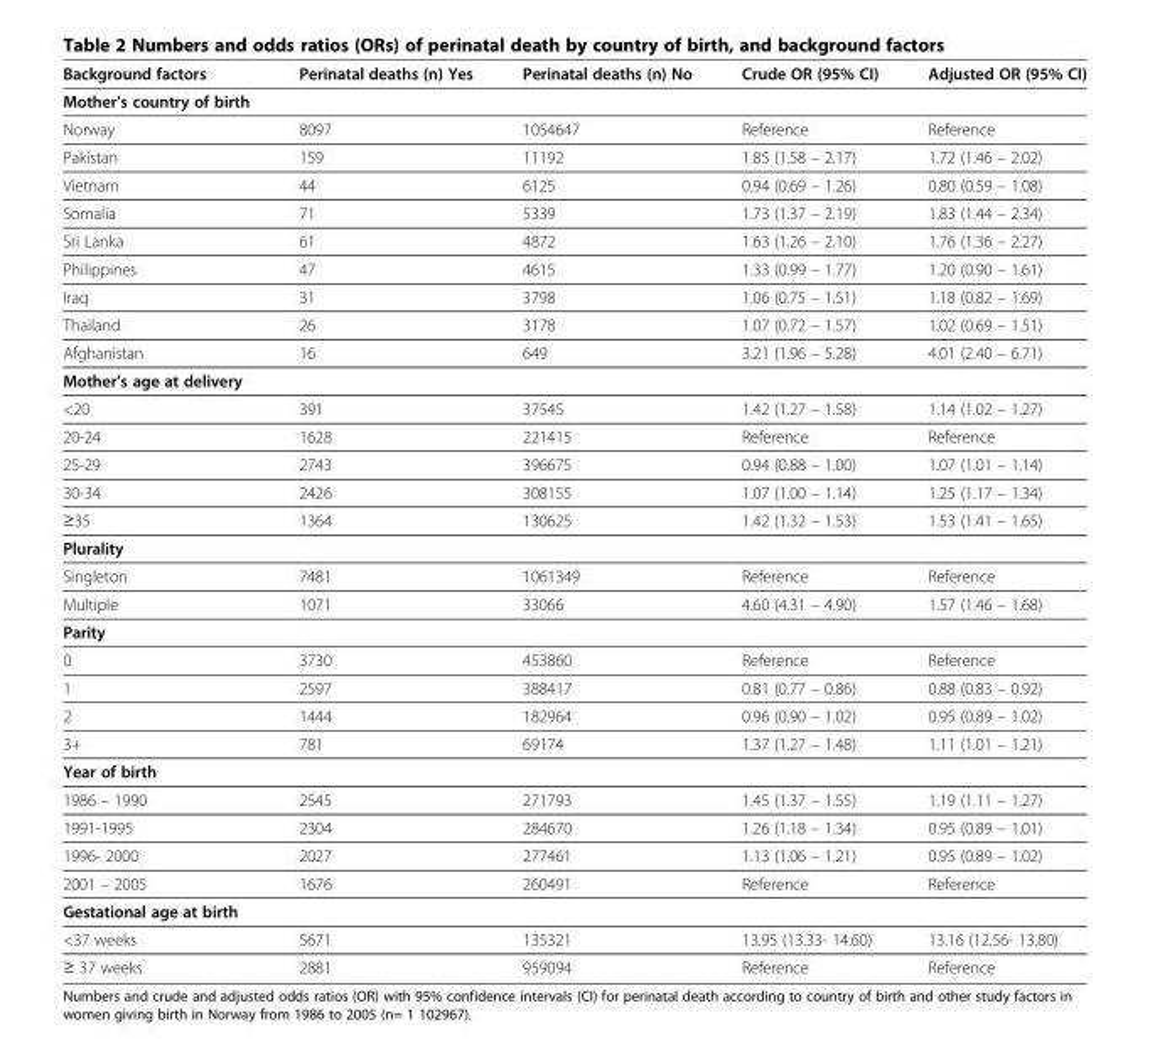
<table><thead><tr><td>Background factors</td><td>Perinatal deaths (n) Yes</td><td>Perinatal deaths (n) No</td><td>Crude OR (95% CI)</td><td>Adjusted OR (95% CI)</td></tr></thead><tbody><tr><td colspan="5">Mother’s country of birth</td></tr><tr><td>Norway</td><td>8097</td><td>1054647</td><td>Reference</td><td>Reference</td></tr><tr><td>Pakistan</td><td>159</td><td>11192</td><td>1.85 (1.58 – 2.17)</td><td>1.72 (1.46 – 2.02)</td></tr><tr><td>Vietnam</td><td>44</td><td>6125</td><td>0.94 (0.69 – 1.26)</td><td>0.80 (0.59 – 1.08)</td></tr><tr><td>Somalia</td><td>71</td><td>5339</td><td>1.73 (1.37 – 2.19)</td><td>1.83 (1.44 – 2.34)</td></tr><tr><td>Sri Lanka</td><td>61</td><td>4872</td><td>1.63 (1.26 – 2.10)</td><td>1.76 (1.36 – 2.27)</td></tr><tr><td>Philippines</td><td>47</td><td>4615</td><td>1.33 (0.99 – 1.77)</td><td>1.20 (0.90 – 1.61)</td></tr><tr><td>Iraq</td><td>31</td><td>3798</td><td>1.06 (0.75 – 1.51)</td><td>1.18 (0.82 – 1.69)</td></tr><tr><td>Thailand</td><td>26</td><td>3178</td><td>1.07 (0.72 – 1.57)</td><td>1.02 (0.69 – 1.51)</td></tr><tr><td>Afghanistan</td><td>16</td><td>649</td><td>3.21 (1.96 – 5.28)</td><td>4.01 (2.40 – 6.71)</td></tr><tr><td colspan="5">Mother’s age at delivery</td></tr><tr><td>&lt;20</td><td>391</td><td>37545</td><td>1.42 (1.27 – 1.58)</td><td>1.14 (1.02 – 1.27)</td></tr><tr><td>20-24</td><td>1628</td><td>221415</td><td>Reference</td><td>Reference</td></tr><tr><td>25-29</td><td>2743</td><td>396675</td><td>0.94 (0.88 – 1.00)</td><td>1.07 (1.01 – 1.14)</td></tr><tr><td>30-34</td><td>2426</td><td>308155</td><td>1.07 (1.00 – 1.14)</td><td>1.25 (1.17 – 1.34)</td></tr><tr><td>≥35</td><td>1364</td><td>130625</td><td>1.42 (1.32 – 1.53)</td><td>1.53 (1.41 – 1.65)</td></tr><tr><td colspan="5">Plurality</td></tr><tr><td>Singleton</td><td>7481</td><td>1061349</td><td>Reference</td><td>Reference</td></tr><tr><td>Multiple</td><td>1071</td><td>33066</td><td>4.60 (4.31 – 4.90)</td><td>1.57 (1.46 – 1.68)</td></tr><tr><td colspan="5">Parity</td></tr><tr><td>0</td><td>3730</td><td>453860</td><td>Reference</td><td>Reference</td></tr><tr><td>1</td><td>2597</td><td>388417</td><td>0.81 (0.77 – 0.86)</td><td>0.88 (0.83 – 0.92)</td></tr><tr><td>2</td><td>1444</td><td>182964</td><td>0.96 (0.90 – 1.02)</td><td>0.95 (0.89 – 1.02)</td></tr><tr><td>3+</td><td>781</td><td>69174</td><td>1.37 (1.27 – 1.48)</td><td>1.11 (1.01 – 1.21)</td></tr><tr><td colspan="5">Year of birth</td></tr><tr><td>1986 – 1990</td><td>2545</td><td>271793</td><td>1.45 (1.37 – 1.55)</td><td>1.19 (1.11 – 1.27)</td></tr><tr><td>1991-1995</td><td>2304</td><td>284670</td><td>1.26 (1.18 – 1.34)</td><td>0.95 (0.89 – 1.01)</td></tr><tr><td>1996- 2000</td><td>2027</td><td>277461</td><td>1.13 (1.06 – 1.21)</td><td>0.95 (0.89 – 1.02)</td></tr><tr><td>2001 – 2005</td><td>1676</td><td>260491</td><td>Reference</td><td>Reference</td></tr><tr><td colspan="5">Gestational age at birth</td></tr><tr><td>&lt;37 weeks</td><td>5671</td><td>135321</td><td>13.95 (13.33- 14.60)</td><td>13.16 (12.56- 13.80)</td></tr><tr><td>≥ 37 weeks</td><td>2881</td><td>959094</td><td>Reference</td><td>Reference</td></tr></tbody></table>